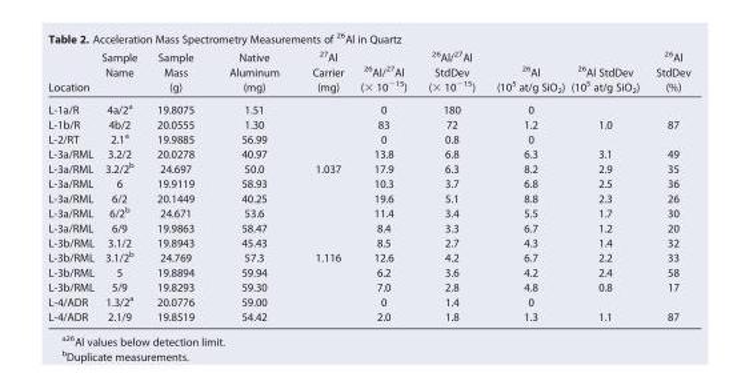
<table><thead><tr><td rowspan="2">Location</td><td rowspan="2">Sample Name</td><td rowspan="2">Sample Mass (g)</td><td rowspan="2">Native Aluminum (mg)</td><td rowspan="2"><sup>27</sup>Al Carrier (mg)</td><td rowspan="2"><sup>26</sup>Al/<sup>27</sup>Al (× 10<sup>−15</sup>)</td><td rowspan="2"><sup>26</sup>Al/<sup>27</sup>Al StdDev (× 10<sup>−15</sup>)</td><td rowspan="2"><sup>26</sup>Al (10<sup>5</sup> at/g SiO<sub>2</sub>)</td><td rowspan="2"><sup>26</sup>Al StdDev (10<sup>5</sup> at/g SiO<sub>2</sub>)</td><td rowspan="2"><sup>26</sup>Al StdDev (%)</td></tr><tr></tr></thead><tbody><tr><td>L-1a/R</td><td>4a/2<sup>a</sup></td><td>19.8075</td><td>1.51</td><td></td><td>0</td><td>180</td><td>0</td><td></td><td></td></tr><tr><td>L-1b/R</td><td>4b/2</td><td>20.0555</td><td>1.30</td><td></td><td>83</td><td>72</td><td>1.2</td><td>1.0</td><td>87</td></tr><tr><td>L-2/RT</td><td>2.1<sup>a</sup></td><td>19.9885</td><td>56.99</td><td></td><td>0</td><td>0.8</td><td>0</td><td></td><td></td></tr><tr><td>L-3a/RML</td><td>3.2/2</td><td>20.0278</td><td>40.97</td><td></td><td>13.8</td><td>6.8</td><td>6.3</td><td>3.1</td><td>49</td></tr><tr><td>L-3a/RML</td><td>3.2/2<sup>b</sup></td><td>24.697</td><td>50.0</td><td>1.037</td><td>17.9</td><td>6.3</td><td>8.2</td><td>2.9</td><td>35</td></tr><tr><td>L-3a/RML</td><td>6</td><td>19.9119</td><td>58.93</td><td></td><td>10.3</td><td>3.7</td><td>6.8</td><td>2.5</td><td>36</td></tr><tr><td>L-3a/RML</td><td>6/2</td><td>20.1449</td><td>40.25</td><td></td><td>19.6</td><td>5.1</td><td>8.8</td><td>2.3</td><td>26</td></tr><tr><td>L-3a/RML</td><td>6/2<sup>b</sup></td><td>24.671</td><td>53.6</td><td></td><td>11.4</td><td>3.4</td><td>5.5</td><td>1.7</td><td>30</td></tr><tr><td>L-3a/RML</td><td>6/9</td><td>19.9863</td><td>58.47</td><td></td><td>8.4</td><td>3.3</td><td>6.7</td><td>1.2</td><td>20</td></tr><tr><td>L-3b/RML</td><td>3.1/2</td><td>19.8943</td><td>45.43</td><td></td><td>8.5</td><td>2.7</td><td>4.3</td><td>1.4</td><td>32</td></tr><tr><td>L-3b/RML</td><td>3.1/2<sup>b</sup></td><td>24.769</td><td>57.3</td><td>1.116</td><td>12.6</td><td>4.2</td><td>6.7</td><td>2.2</td><td>33</td></tr><tr><td>L-3b/RML</td><td>5</td><td>19.8894</td><td>59.94</td><td></td><td>6.2</td><td>3.6</td><td>4.2</td><td>2.4</td><td>58</td></tr><tr><td>L-3b/RML</td><td>5/9</td><td>19.8293</td><td>59.30</td><td></td><td>7.0</td><td>2.8</td><td>4.8</td><td>0.8</td><td>17</td></tr><tr><td>L-4/ADR</td><td>1.3/2<sup>a</sup></td><td>20.0776</td><td>59.00</td><td></td><td>0</td><td>1.4</td><td>0</td><td></td><td></td></tr><tr><td>L-4/ADR</td><td>2.1/9</td><td>19.8519</td><td>54.42</td><td></td><td>2.0</td><td>1.8</td><td>1.3</td><td>1.1</td><td>87</td></tr></tbody></table>